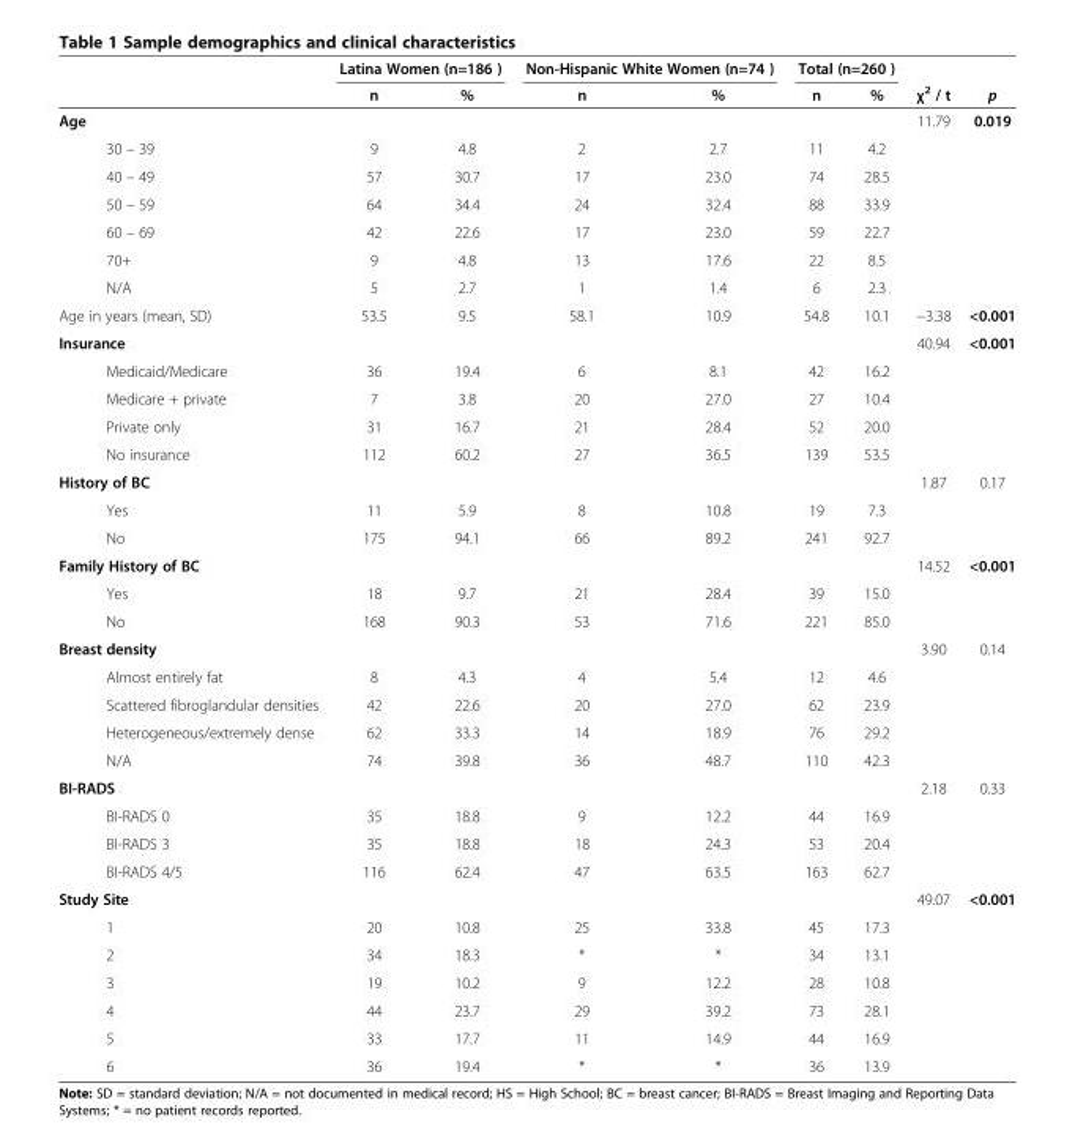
<table><thead><tr><td rowspan="2"></td><td colspan="2">Latina Women (n=186 )</td><td colspan="2">Non-Hispanic White Women (n=74 )</td><td colspan="2">Total (n=260 )</td><td rowspan="2">χ<sup>2</sup> / t</td><td rowspan="2">p</td></tr><tr><td>n</td><td>%</td><td>n</td><td>%</td><td>n</td><td>%</td></tr></thead><tbody><tr><td>Age</td><td></td><td></td><td></td><td></td><td></td><td></td><td>11.79</td><td>0.019</td></tr><tr><td>30 – 39</td><td>9</td><td>4.8</td><td>2</td><td>2.7</td><td>11</td><td>4.2</td><td></td><td></td></tr><tr><td>40 – 49</td><td>57</td><td>30.7</td><td>17</td><td>23.0</td><td>74</td><td>28.5</td><td></td><td></td></tr><tr><td>50 – 59</td><td>64</td><td>34.4</td><td>24</td><td>32.4</td><td>88</td><td>33.9</td><td></td><td></td></tr><tr><td>60 – 69</td><td>42</td><td>22.6</td><td>17</td><td>23.0</td><td>59</td><td>22.7</td><td></td><td></td></tr><tr><td>70+</td><td>9</td><td>4.8</td><td>13</td><td>17.6</td><td>22</td><td>8.5</td><td></td><td></td></tr><tr><td>N/A</td><td>5</td><td>2.7</td><td>1</td><td>1.4</td><td>6</td><td>2.3</td><td></td><td></td></tr><tr><td>Age in years (mean, SD)</td><td>53.5</td><td>9.5</td><td>58.1</td><td>10.9</td><td>54.8</td><td>10.1</td><td>−3.38</td><td>&lt;0.001</td></tr><tr><td>Insurance</td><td></td><td></td><td></td><td></td><td></td><td></td><td>40.94</td><td>&lt;0.001</td></tr><tr><td>Medicaid/Medicare</td><td>36</td><td>19.4</td><td>6</td><td>8.1</td><td>42</td><td>16.2</td><td></td><td></td></tr><tr><td>Medicare + private</td><td>7</td><td>3.8</td><td>20</td><td>27.0</td><td>27</td><td>10.4</td><td></td><td></td></tr><tr><td>Private only</td><td>31</td><td>16.7</td><td>21</td><td>28.4</td><td>52</td><td>20.0</td><td></td><td></td></tr><tr><td>No insurance</td><td>112</td><td>60.2</td><td>27</td><td>36.5</td><td>139</td><td>53.5</td><td></td><td></td></tr><tr><td>History of BC</td><td></td><td></td><td></td><td></td><td></td><td></td><td>1.87</td><td>0.17</td></tr><tr><td>Yes</td><td>11</td><td>5.9</td><td>8</td><td>10.8</td><td>19</td><td>7.3</td><td></td><td></td></tr><tr><td>No</td><td>175</td><td>94.1</td><td>66</td><td>89.2</td><td>241</td><td>92.7</td><td></td><td></td></tr><tr><td>Family History of BC</td><td></td><td></td><td></td><td></td><td></td><td></td><td>14.52</td><td>&lt;0.001</td></tr><tr><td>Yes</td><td>18</td><td>9.7</td><td>21</td><td>28.4</td><td>39</td><td>15.0</td><td></td><td></td></tr><tr><td>No</td><td>168</td><td>90.3</td><td>53</td><td>71.6</td><td>221</td><td>85.0</td><td></td><td></td></tr><tr><td>Breast density</td><td></td><td></td><td></td><td></td><td></td><td></td><td>3.90</td><td>0.14</td></tr><tr><td>Almost entirely fat</td><td>8</td><td>4.3</td><td>4</td><td>5.4</td><td>12</td><td>4.6</td><td></td><td></td></tr><tr><td>Scattered fibroglandular densities</td><td>42</td><td>22.6</td><td>20</td><td>27.0</td><td>62</td><td>23.9</td><td></td><td></td></tr><tr><td>Heterogeneous/extremely dense</td><td>62</td><td>33.3</td><td>14</td><td>18.9</td><td>76</td><td>29.2</td><td></td><td></td></tr><tr><td>N/A</td><td>74</td><td>39.8</td><td>36</td><td>48.7</td><td>110</td><td>42.3</td><td></td><td></td></tr><tr><td>BI-RADS</td><td></td><td></td><td></td><td></td><td></td><td></td><td>2.18</td><td>0.33</td></tr><tr><td>BI-RADS 0</td><td>35</td><td>18.8</td><td>9</td><td>12.2</td><td>44</td><td>16.9</td><td></td><td></td></tr><tr><td>BI-RADS 3</td><td>35</td><td>18.8</td><td>18</td><td>24.3</td><td>53</td><td>20.4</td><td></td><td></td></tr><tr><td>BI-RADS 4/5</td><td>116</td><td>62.4</td><td>47</td><td>63.5</td><td>163</td><td>62.7</td><td></td><td></td></tr><tr><td>Study Site</td><td></td><td></td><td></td><td></td><td></td><td></td><td>49.07</td><td>&lt;0.001</td></tr><tr><td>1</td><td>20</td><td>10.8</td><td>25</td><td>33.8</td><td>45</td><td>17.3</td><td></td><td></td></tr><tr><td>2</td><td>34</td><td>18.3</td><td>*</td><td>*</td><td>34</td><td>13.1</td><td></td><td></td></tr><tr><td>3</td><td>19</td><td>10.2</td><td>9</td><td>12.2</td><td>28</td><td>10.8</td><td></td><td></td></tr><tr><td>4</td><td>44</td><td>23.7</td><td>29</td><td>39.2</td><td>73</td><td>28.1</td><td></td><td></td></tr><tr><td>5</td><td>33</td><td>17.7</td><td>11</td><td>14.9</td><td>44</td><td>16.9</td><td></td><td></td></tr><tr><td>6</td><td>36</td><td>19.4</td><td>*</td><td>*</td><td>36</td><td>13.9</td><td></td><td></td></tr></tbody></table>